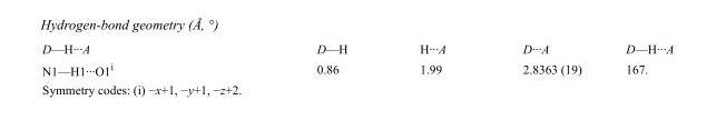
<table><tbody><tr><td>D—H···A</td><td>D—H</td><td>H···A</td><td>D···A</td><td>D—H···A</td></tr><tr><td>N1—H1···O1<sup>i</sup></td><td>0.86</td><td>1.99</td><td>2.8363 (19)</td><td>167.</td></tr></tbody></table>